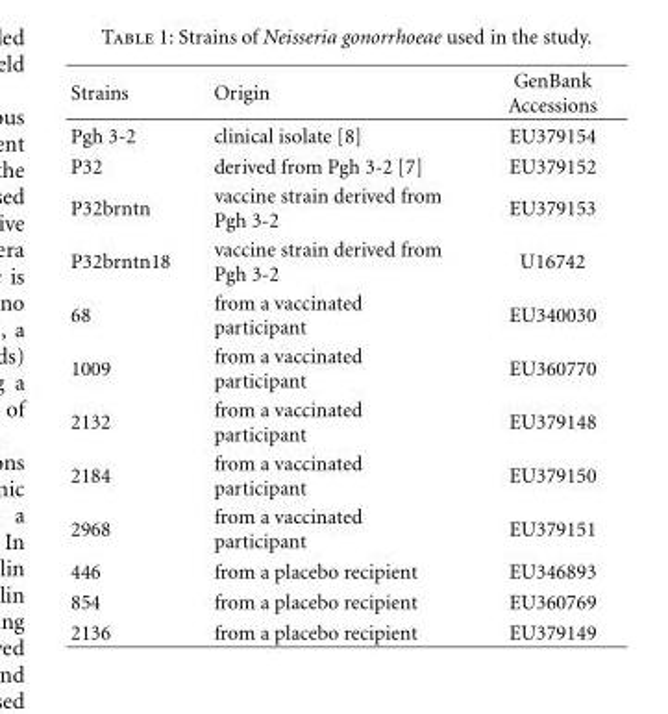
<table><thead><tr><td>Strains</td><td>Origin</td><td>GenBank Accessions</td></tr></thead><tbody><tr><td>Pgh 3-2</td><td>clinical isolate [8]</td><td>EU379154</td></tr><tr><td>P32</td><td>derived from Pgh 3-2 [7]</td><td>EU379152</td></tr><tr><td>P32brntn</td><td>vaccine strain derived from Pgh 3-2</td><td>EU379153</td></tr><tr><td>P32brntn18</td><td>vaccine strain derived from Pgh 3-2</td><td>U16742</td></tr><tr><td>68</td><td>from a vaccinated participant</td><td>EU340030</td></tr><tr><td>1009</td><td>from a vaccinated participant</td><td>EU360770</td></tr><tr><td>2132</td><td>from a vaccinated participant</td><td>EU379148</td></tr><tr><td>2184</td><td>from a vaccinated participant</td><td>EU379150</td></tr><tr><td>2968</td><td>from a vaccinated participant</td><td>EU379151</td></tr><tr><td>446</td><td>from a placebo recipient</td><td>EU346893</td></tr><tr><td>854</td><td>from a placebo recipient</td><td>EU360769</td></tr><tr><td>2136</td><td>from a placebo recipient</td><td>EU379149</td></tr></tbody></table>